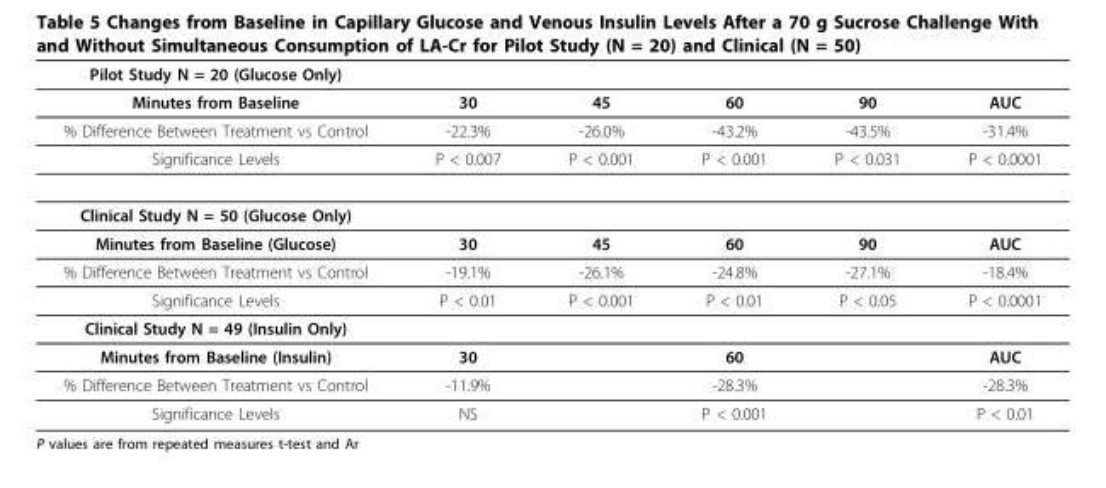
<table><thead><tr><td>Pilot Study N = 20 (Glucose Only)</td><td></td><td></td><td></td><td></td><td></td></tr></thead><tbody><tr><td>Minutes from Baseline</td><td>30</td><td>45</td><td>60</td><td>90</td><td>AUC</td></tr><tr><td>% Difference Between Treatment vs Control</td><td>-22.3%</td><td>-26.0%</td><td>-43.2%</td><td>-43.5%</td><td>-31.4%</td></tr><tr><td>Significance Levels</td><td>P &lt; 0.007</td><td>P &lt; 0.001</td><td>P &lt; 0.001</td><td>P &lt; 0.031</td><td>P &lt; 0.0001</td></tr><tr><td colspan="6">Clinical Study N = 50 (Glucose Only)</td></tr><tr><td>Minutes from Baseline (Glucose)</td><td>30</td><td>45</td><td>60</td><td>90</td><td>AUC</td></tr><tr><td>% Difference Between Treatment vs Control</td><td>-19.1%</td><td>-26.1%</td><td>-24.8%</td><td>-27.1%</td><td>-18.4%</td></tr><tr><td>Significance Levels</td><td>P &lt; 0.01</td><td>P &lt; 0.001</td><td>P &lt; 0.01</td><td>P &lt; 0.05</td><td>P &lt; 0.0001</td></tr><tr><td colspan="6">Clinical Study N = 49 (Insulin Only)</td></tr><tr><td>Minutes from Baseline (Insulin)</td><td>30</td><td></td><td>60</td><td></td><td>AUC</td></tr><tr><td>% Difference Between Treatment vs Control</td><td>-11.9%</td><td></td><td>-28.3%</td><td></td><td>-28.3%</td></tr><tr><td>Significance Levels</td><td>NS</td><td></td><td>P &lt; 0.001</td><td></td><td>P &lt; 0.01</td></tr></tbody></table>